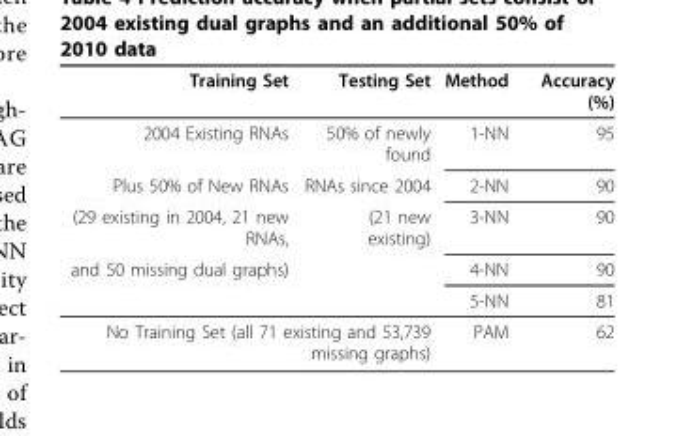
<table><thead><tr><td>Training Set</td><td>Testing Set</td><td>Method</td><td>Accuracy (%)</td></tr></thead><tbody><tr><td>2004 Existing RNAs</td><td>50% of newly found</td><td>1-NN</td><td>95</td></tr><tr><td>Plus 50% of New RNAs</td><td>RNAs since 2004</td><td>2-NN</td><td>90</td></tr><tr><td>(29 existing in 2004, 21 new RNAs,</td><td>(21 new existing)</td><td>3-NN</td><td>90</td></tr><tr><td rowspan="2">and 50 missing dual graphs)</td><td></td><td>4-NN</td><td>90</td></tr><tr><td></td><td>5-NN</td><td>81</td></tr><tr><td colspan="2">No Training Set (all 71 existing and 53,739 missing graphs)</td><td>PAM</td><td>62</td></tr></tbody></table>